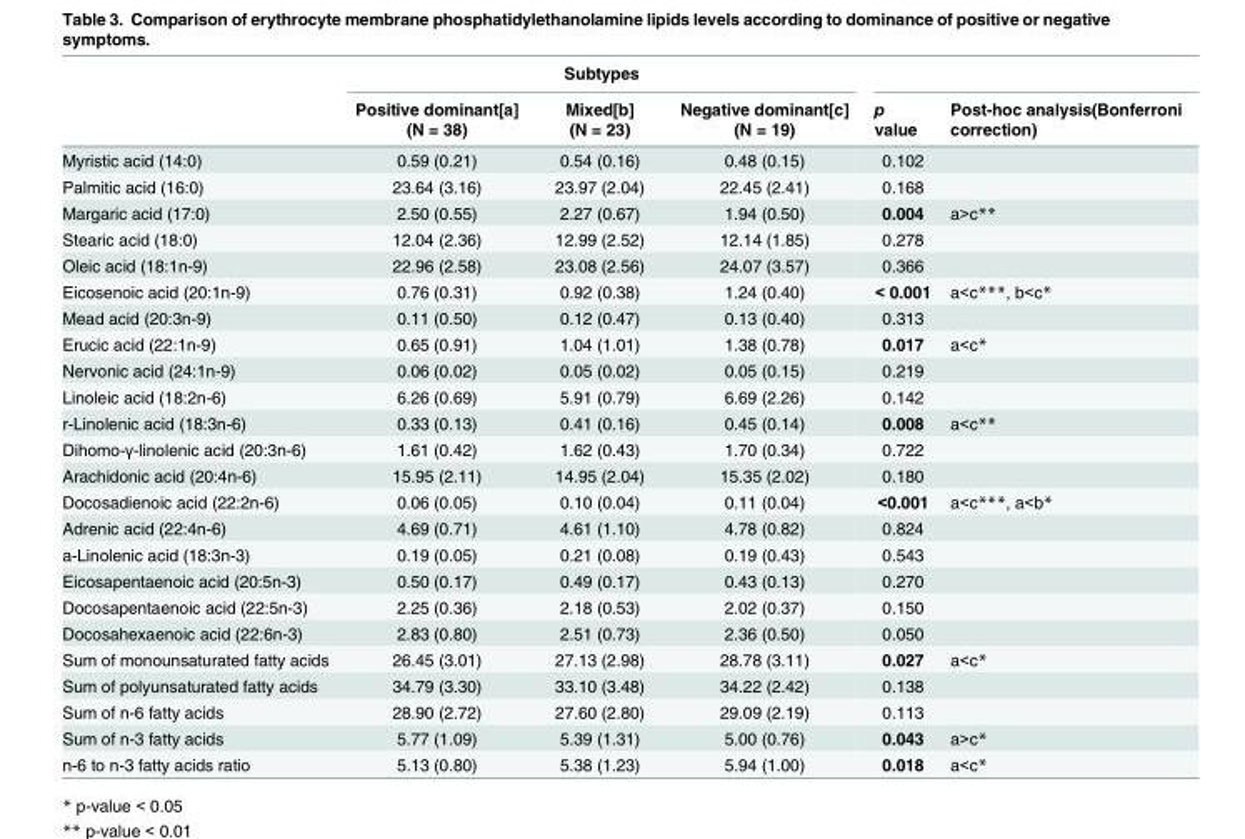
<table><thead><tr><td rowspan="2"></td><td colspan="3">Subtypes</td><td rowspan="2">p value</td><td rowspan="2">Post-hoc analysis(Bonferroni correction)</td></tr><tr><td>Positive dominant[a] (N = 38)</td><td>Mixed[b] (N = 23)</td><td>Negative dominant[c] (N = 19)</td></tr></thead><tbody><tr><td>Myristic acid (14:0)</td><td>0.59 (0.21)</td><td>0.54 (0.16)</td><td>0.48 (0.15)</td><td>0.102</td><td></td></tr><tr><td>Palmitic acid (16:0)</td><td>23.64 (3.16)</td><td>23.97 (2.04)</td><td>22.45 (2.41)</td><td>0.168</td><td></td></tr><tr><td>Margaric acid (17:0)</td><td>2.50 (0.55)</td><td>2.27 (0.67)</td><td>1.94 (0.50)</td><td>0.004</td><td>a&gt;c**</td></tr><tr><td>Stearic acid (18:0)</td><td>12.04 (2.36)</td><td>12.99 (2.52)</td><td>12.14 (1.85)</td><td>0.278</td><td></td></tr><tr><td>Oleic acid (18:1n-9)</td><td>22.96 (2.58)</td><td>23.08 (2.56)</td><td>24.07 (3.57)</td><td>0.366</td><td></td></tr><tr><td>Eicosenoic acid (20:1n-9)</td><td>0.76 (0.31)</td><td>0.92 (0.38)</td><td>1.24 (0.40)</td><td>&lt; 0.001</td><td>a&lt;c***, b&lt;c*</td></tr><tr><td>Mead acid (20:3n-9)</td><td>0.11 (0.50)</td><td>0.12 (0.47)</td><td>0.13 (0.40)</td><td>0.313</td><td></td></tr><tr><td>Erucic acid (22:1n-9)</td><td>0.65 (0.91)</td><td>1.04 (1.01)</td><td>1.38 (0.78)</td><td>0.017</td><td>a&lt;c*</td></tr><tr><td>Nervonic acid (24:1n-9)</td><td>0.06 (0.02)</td><td>0.05 (0.02)</td><td>0.05 (0.15)</td><td>0.219</td><td></td></tr><tr><td>Linoleic acid (18:2n-6)</td><td>6.26 (0.69)</td><td>5.91 (0.79)</td><td>6.69 (2.26)</td><td>0.142</td><td></td></tr><tr><td>r-Linolenic acid (18:3n-6)</td><td>0.33 (0.13)</td><td>0.41 (0.16)</td><td>0.45 (0.14)</td><td>0.008</td><td>a&lt;c**</td></tr><tr><td>Dihomo-γ-linolenic acid (20:3n-6)</td><td>1.61 (0.42)</td><td>1.62 (0.43)</td><td>1.70 (0.34)</td><td>0.722</td><td></td></tr><tr><td>Arachidonic acid (20:4n-6)</td><td>15.95 (2.11)</td><td>14.95 (2.04)</td><td>15.35 (2.02)</td><td>0.180</td><td></td></tr><tr><td>Docosadienoic acid (22:2n-6)</td><td>0.06 (0.05)</td><td>0.10 (0.04)</td><td>0.11 (0.04)</td><td>&lt;0.001</td><td>a&lt;c***, a&lt;b*</td></tr><tr><td>Adrenic acid (22:4n-6)</td><td>4.69 (0.71)</td><td>4.61 (1.10)</td><td>4.78 (0.82)</td><td>0.824</td><td></td></tr><tr><td>a-Linolenic acid (18:3n-3)</td><td>0.19 (0.05)</td><td>0.21 (0.08)</td><td>0.19 (0.43)</td><td>0.543</td><td></td></tr><tr><td>Eicosapentaenoic acid (20:5n-3)</td><td>0.50 (0.17)</td><td>0.49 (0.17)</td><td>0.43 (0.13)</td><td>0.270</td><td></td></tr><tr><td>Docosapentaenoic acid (22:5n-3)</td><td>2.25 (0.36)</td><td>2.18 (0.53)</td><td>2.02 (0.37)</td><td>0.150</td><td></td></tr><tr><td>Docosahexaenoic acid (22:6n-3)</td><td>2.83 (0.80)</td><td>2.51 (0.73)</td><td>2.36 (0.50)</td><td>0.050</td><td></td></tr><tr><td>Sum of monounsaturated fatty acids</td><td>26.45 (3.01)</td><td>27.13 (2.98)</td><td>28.78 (3.11)</td><td>0.027</td><td>a&lt;c*</td></tr><tr><td>Sum of polyunsaturated fatty acids</td><td>34.79 (3.30)</td><td>33.10 (3.48)</td><td>34.22 (2.42)</td><td>0.138</td><td></td></tr><tr><td>Sum of n-6 fatty acids</td><td>28.90 (2.72)</td><td>27.60 (2.80)</td><td>29.09 (2.19)</td><td>0.113</td><td></td></tr><tr><td>Sum of n-3 fatty acids</td><td>5.77 (1.09)</td><td>5.39 (1.31)</td><td>5.00 (0.76)</td><td>0.043</td><td>a&gt;c*</td></tr><tr><td>n-6 to n-3 fatty acids ratio</td><td>5.13 (0.80)</td><td>5.38 (1.23)</td><td>5.94 (1.00)</td><td>0.018</td><td>a&lt;c*</td></tr></tbody></table>